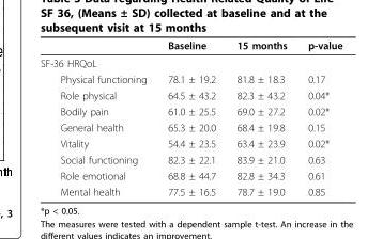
<table><thead><tr><td></td><td>Baseline</td><td>15 months</td><td>p-value</td></tr></thead><tbody><tr><td colspan="4">SF-36 HRQoL</td></tr><tr><td>Physical functioning</td><td>78.1 ± 19.2</td><td>81.8 ± 18.3</td><td>0.17</td></tr><tr><td>Role physical</td><td>64.5 ± 43.2</td><td>82.3 ± 43.2</td><td>0.04*</td></tr><tr><td>Bodily pain</td><td>61.0 ± 25.5</td><td>69.0 ± 27.2</td><td>0.02*</td></tr><tr><td>General health</td><td>65.3 ± 20.0</td><td>68.4 ± 19.8</td><td>0.15</td></tr><tr><td>Vitality</td><td>54.4 ± 23.5</td><td>63.4 ± 23.9</td><td>0.02*</td></tr><tr><td>Social functioning</td><td>82.3 ± 22.1</td><td>83.9 ± 21.0</td><td>0.63</td></tr><tr><td>Role emotional</td><td>68.8 ± 44.7</td><td>82.8 ± 34.3</td><td>0.61</td></tr><tr><td>Mental health</td><td>77.5 ± 16.5</td><td>78.7 ± 19.0</td><td>0.85</td></tr></tbody></table>